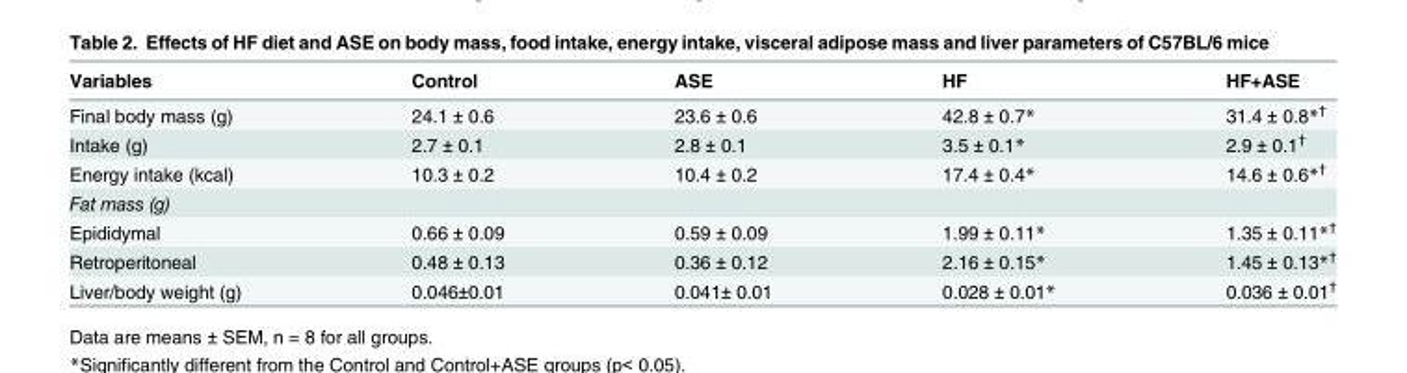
<table><thead><tr><td>Variables</td><td>Control</td><td>ASE</td><td>HF</td><td>HF+ASE</td></tr></thead><tbody><tr><td>Final body mass (g)</td><td>24.1 ± 0.6</td><td>23.6 ± 0.6</td><td>42.8 ± 0.7*</td><td>31.4 ± 0.8*<sup>†</sup></td></tr><tr><td>Intake (g)</td><td>2.7 ± 0.1</td><td>2.8 ± 0.1</td><td>3.5 ± 0.1*</td><td>2.9 ± 0.1<sup>†</sup></td></tr><tr><td>Energy intake (kcal)</td><td>10.3 ± 0.2</td><td>10.4 ± 0.2</td><td>17.4 ± 0.4*</td><td>14.6 ± 0.6*<sup>†</sup></td></tr><tr><td colspan="5">Fat mass (g)</td></tr><tr><td>Epididymal</td><td>0.66 ± 0.09</td><td>0.59 ± 0.09</td><td>1.99 ± 0.11*</td><td>1.35 ± 0.11*<sup>†</sup></td></tr><tr><td>Retroperitoneal</td><td>0.48 ± 0.13</td><td>0.36 ± 0.12</td><td>2.16 ± 0.15*</td><td>1.45 ± 0.13*<sup>†</sup></td></tr><tr><td>Liver/body weight (g)</td><td>0.046±0.01</td><td>0.041± 0.01</td><td>0.028 ± 0.01*</td><td>0.036 ± 0.01<sup>†</sup></td></tr></tbody></table>